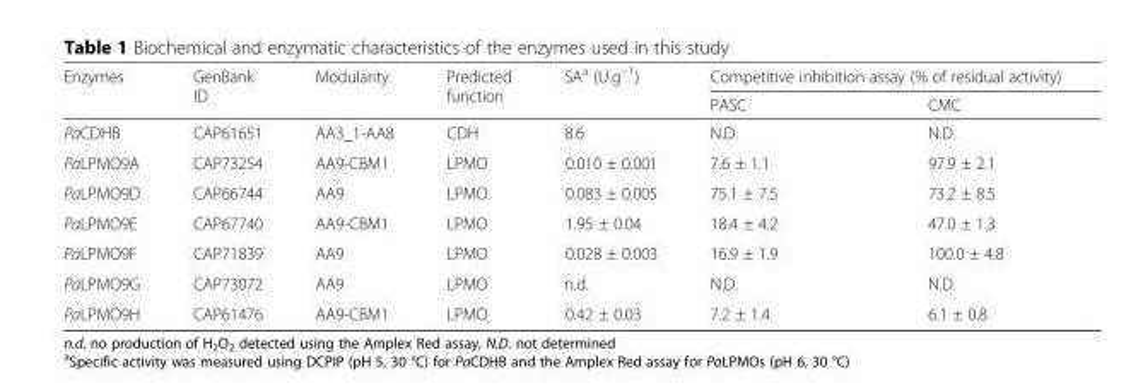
<table><thead><tr><td rowspan="2">Enzymes</td><td rowspan="2">GenBank ID</td><td rowspan="2">Modularity</td><td rowspan="2">Predicted function</td><td rowspan="2">SA<sup>a</sup> (U.g<sup>−1</sup>)</td><td colspan="2">Competitive inhibition assay (% of residual activity)</td></tr><tr><td>PASC</td><td>CMC</td></tr></thead><tbody><tr><td>PaCDHB</td><td>CAP61651</td><td>AA3_1-AA8</td><td>CDH</td><td>8.6</td><td>N.D.</td><td>N.D.</td></tr><tr><td>PaLPMO9A</td><td>CAP73254</td><td>AA9-CBM1</td><td>LPMO</td><td>0.010 ± 0.001</td><td>7.6 ± 1.1</td><td>97.9 ± 2.1</td></tr><tr><td>PaLPMO9D</td><td>CAP66744</td><td>AA9</td><td>LPMO</td><td>0.083 ± 0.005</td><td>75.1 ± 7.5</td><td>73.2 ± 8.5</td></tr><tr><td>PaLPMO9E</td><td>CAP67740</td><td>AA9-CBM1</td><td>LPMO</td><td>1.95 ± 0.04</td><td>18.4 ± 4.2</td><td>47.0 ± 1.3</td></tr><tr><td>PaLPMO9F</td><td>CAP71839</td><td>AA9</td><td>LPMO</td><td>0.028 ± 0.003</td><td>16.9 ± 1.9</td><td>100.0 ± 4.8</td></tr><tr><td>PaLPMO9G</td><td>CAP73072</td><td>AA9</td><td>LPMO</td><td>n.d.</td><td>N.D.</td><td>N.D.</td></tr><tr><td>PaLPMO9H</td><td>CAP61476</td><td>AA9-CBM1</td><td>LPMO</td><td>0.42 ± 0.03</td><td>7.2 ± 1.4</td><td>6.1 ± 0.8</td></tr></tbody></table>